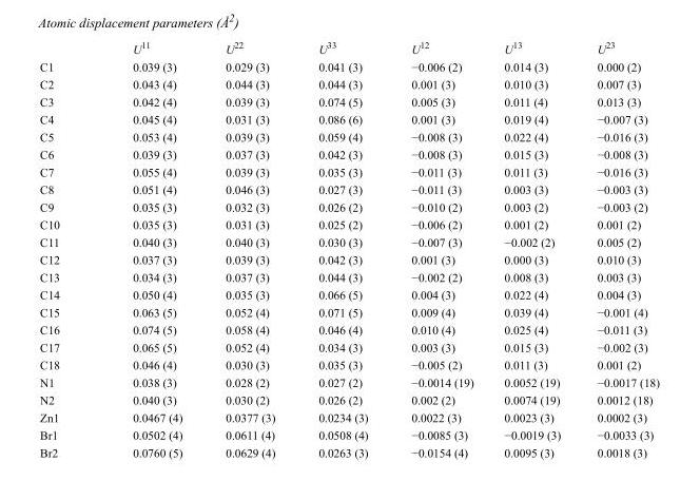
<table><thead><tr><td></td><td>U<sup>11</sup></td><td>U<sup>22</sup></td><td>U<sup>33</sup></td><td>U<sup>12</sup></td><td>U<sup>13</sup></td><td>U<sup>23</sup></td></tr></thead><tbody><tr><td>C1</td><td>0.039 (3)</td><td>0.029 (3)</td><td>0.041 (3)</td><td>−0.006 (2)</td><td>0.014 (3)</td><td>0.000 (2)</td></tr><tr><td>C2</td><td>0.043 (4)</td><td>0.044 (3)</td><td>0.044 (3)</td><td>0.001 (3)</td><td>0.010 (3)</td><td>0.007 (3)</td></tr><tr><td>C3</td><td>0.042 (4)</td><td>0.039 (3)</td><td>0.074 (5)</td><td>0.005 (3)</td><td>0.011 (4)</td><td>0.013 (3)</td></tr><tr><td>C4</td><td>0.045 (4)</td><td>0.031 (3)</td><td>0.086 (6)</td><td>0.001 (3)</td><td>0.019 (4)</td><td>−0.007 (3)</td></tr><tr><td>C5</td><td>0.053 (4)</td><td>0.039 (3)</td><td>0.059 (4)</td><td>−0.008 (3)</td><td>0.022 (4)</td><td>−0.016 (3)</td></tr><tr><td>C6</td><td>0.039 (3)</td><td>0.037 (3)</td><td>0.042 (3)</td><td>−0.008 (3)</td><td>0.015 (3)</td><td>−0.008 (3)</td></tr><tr><td>C7</td><td>0.055 (4)</td><td>0.039 (3)</td><td>0.035 (3)</td><td>−0.011 (3)</td><td>0.011 (3)</td><td>−0.016 (3)</td></tr><tr><td>C8</td><td>0.051 (4)</td><td>0.046 (3)</td><td>0.027 (3)</td><td>−0.011 (3)</td><td>0.003 (3)</td><td>−0.003 (3)</td></tr><tr><td>C9</td><td>0.035 (3)</td><td>0.032 (3)</td><td>0.026 (2)</td><td>−0.010 (2)</td><td>0.003 (2)</td><td>−0.003 (2)</td></tr><tr><td>C10</td><td>0.035 (3)</td><td>0.031 (3)</td><td>0.025 (2)</td><td>−0.006 (2)</td><td>0.001 (2)</td><td>0.001 (2)</td></tr><tr><td>C11</td><td>0.040 (3)</td><td>0.040 (3)</td><td>0.030 (3)</td><td>−0.007 (3)</td><td>−0.002 (2)</td><td>0.005 (2)</td></tr><tr><td>C12</td><td>0.037 (3)</td><td>0.039 (3)</td><td>0.042 (3)</td><td>0.001 (3)</td><td>0.000 (3)</td><td>0.010 (3)</td></tr><tr><td>C13</td><td>0.034 (3)</td><td>0.037 (3)</td><td>0.044 (3)</td><td>−0.002 (2)</td><td>0.008 (3)</td><td>0.003 (3)</td></tr><tr><td>C14</td><td>0.050 (4)</td><td>0.035 (3)</td><td>0.066 (5)</td><td>0.004 (3)</td><td>0.022 (4)</td><td>0.004 (3)</td></tr><tr><td>C15</td><td>0.063 (5)</td><td>0.052 (4)</td><td>0.071 (5)</td><td>0.009 (4)</td><td>0.039 (4)</td><td>−0.001 (4)</td></tr><tr><td>C16</td><td>0.074 (5)</td><td>0.058 (4)</td><td>0.046 (4)</td><td>0.010 (4)</td><td>0.025 (4)</td><td>−0.011 (3)</td></tr><tr><td>C17</td><td>0.065 (5)</td><td>0.052 (4)</td><td>0.034 (3)</td><td>0.003 (3)</td><td>0.015 (3)</td><td>−0.002 (3)</td></tr><tr><td>C18</td><td>0.046 (4)</td><td>0.030 (3)</td><td>0.035 (3)</td><td>−0.005 (2)</td><td>0.011 (3)</td><td>0.001 (2)</td></tr><tr><td>N1</td><td>0.038 (3)</td><td>0.028 (2)</td><td>0.027 (2)</td><td>−0.0014 (19)</td><td>0.0052 (19)</td><td>−0.0017 (18)</td></tr><tr><td>N2</td><td>0.040 (3)</td><td>0.030 (2)</td><td>0.026 (2)</td><td>0.002 (2)</td><td>0.0074 (19)</td><td>0.0012 (18)</td></tr><tr><td>Zn1</td><td>0.0467 (4)</td><td>0.0377 (3)</td><td>0.0234 (3)</td><td>0.0022 (3)</td><td>0.0023 (3)</td><td>0.0002 (3)</td></tr><tr><td>Br1</td><td>0.0502 (4)</td><td>0.0611 (4)</td><td>0.0508 (4)</td><td>−0.0085 (3)</td><td>−0.0019 (3)</td><td>−0.0033 (3)</td></tr><tr><td>Br2</td><td>0.0760 (5)</td><td>0.0629 (4)</td><td>0.0263 (3)</td><td>−0.0154 (4)</td><td>0.0095 (3)</td><td>0.0018 (3)</td></tr></tbody></table>